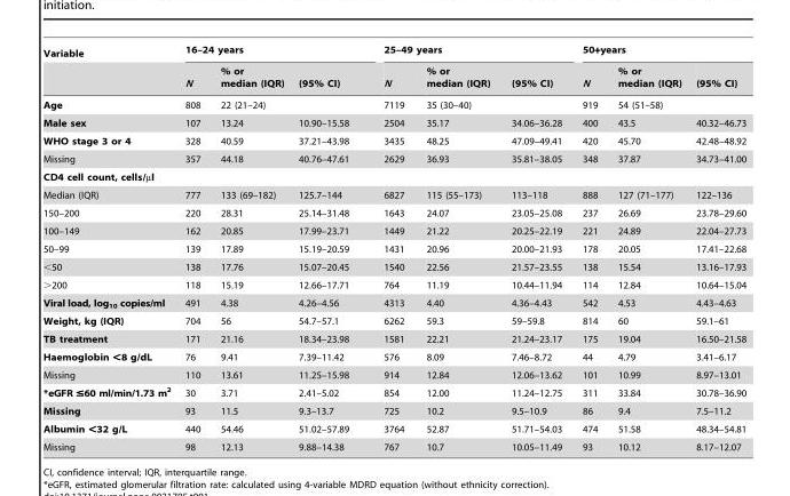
<table><thead><tr><td rowspan="2">Variable</td><td colspan="3">16–24 years</td><td colspan="3">25–49 years</td><td colspan="3">50+years</td></tr><tr><td>N</td><td>% or median (IQR)</td><td>(95% CI)</td><td>N</td><td>% or median (IQR)</td><td>(95% CI)</td><td>N</td><td>% or median (IQR)</td><td>(95% CI)</td></tr></thead><tbody><tr><td>Age</td><td>808</td><td>22 (21–24)</td><td></td><td>7119</td><td>35 (30–40)</td><td></td><td>919</td><td>54 (51–58)</td><td></td></tr><tr><td>Male sex</td><td>107</td><td>13.24</td><td>10.90–15.58</td><td>2504</td><td>35.17</td><td>34.06–36.28</td><td>400</td><td>43.5</td><td>40.32–46.73</td></tr><tr><td>WHO stage 3 or 4</td><td>328</td><td>40.59</td><td>37.21–43.98</td><td>3435</td><td>48.25</td><td>47.09–49.41</td><td>420</td><td>45.70</td><td>42.48–48.92</td></tr><tr><td>Missing</td><td>357</td><td>44.18</td><td>40.76–47.61</td><td>2629</td><td>36.93</td><td>35.81–38.05</td><td>348</td><td>37.87</td><td>34.73–41.00</td></tr><tr><td colspan="10">CD4 cell count, cells/µl</td></tr><tr><td>Median (IQR)</td><td>777</td><td>133 (69–182)</td><td>125.7–144</td><td>6827</td><td>115 (55–173)</td><td>113–118</td><td>888</td><td>127 (71–177)</td><td>122–136</td></tr><tr><td>150–200</td><td>220</td><td>28.31</td><td>25.14–31.48</td><td>1643</td><td>24.07</td><td>23.05–25.08</td><td>237</td><td>26.69</td><td>23.78–29.60</td></tr><tr><td>100–149</td><td>162</td><td>20.85</td><td>17.99–23.71</td><td>1449</td><td>21.22</td><td>20.25–22.19</td><td>221</td><td>24.89</td><td>22.04–27.73</td></tr><tr><td>50–99</td><td>139</td><td>17.89</td><td>15.19–20.59</td><td>1431</td><td>20.96</td><td>20.00–21.93</td><td>178</td><td>20.05</td><td>17.41–22.68</td></tr><tr><td>&lt;50</td><td>138</td><td>17.76</td><td>15.07–20.45</td><td>1540</td><td>22.56</td><td>21.57–23.55</td><td>138</td><td>15.54</td><td>13.16–17.93</td></tr><tr><td>&gt;200</td><td>118</td><td>15.19</td><td>12.66–17.71</td><td>764</td><td>11.19</td><td>10.44–11.94</td><td>114</td><td>12.84</td><td>10.64–15.04</td></tr><tr><td>Viral load, log<sub>10</sub> copies/ml</td><td>491</td><td>4.38</td><td>4.26–4.56</td><td>4313</td><td>4.40</td><td>4.36–4.43</td><td>542</td><td>4.53</td><td>4.43–4.63</td></tr><tr><td>Weight, kg (IQR)</td><td>704</td><td>56</td><td>54.7–57.1</td><td>6262</td><td>59.3</td><td>59–59.8</td><td>814</td><td>60</td><td>59.1–61</td></tr><tr><td>TB treatment</td><td>171</td><td>21.16</td><td>18.34–23.98</td><td>1581</td><td>22.21</td><td>21.24–23.17</td><td>175</td><td>19.04</td><td>16.50–21.58</td></tr><tr><td>Haemoglobin &lt;8 g/dL</td><td>76</td><td>9.41</td><td>7.39–11.42</td><td>576</td><td>8.09</td><td>7.46–8.72</td><td>44</td><td>4.79</td><td>3.41–6.17</td></tr><tr><td>Missing</td><td>110</td><td>13.61</td><td>11.25–15.98</td><td>914</td><td>12.84</td><td>12.06–13.62</td><td>101</td><td>10.99</td><td>8.97–13.01</td></tr><tr><td>*eGFR ≤60 ml/min/1.73 m<sup>2</sup></td><td>30</td><td>3.71</td><td>2.41–5.02</td><td>854</td><td>12.00</td><td>11.24–12.75</td><td>311</td><td>33.84</td><td>30.78–36.90</td></tr><tr><td>Missing</td><td>93</td><td>11.5</td><td>9.3–13.7</td><td>725</td><td>10.2</td><td>9.5–10.9</td><td>86</td><td>9.4</td><td>7.5–11.2</td></tr><tr><td>Albumin &lt;32 g/L</td><td>440</td><td>54.46</td><td>51.02–57.89</td><td>3764</td><td>52.87</td><td>51.71–54.03</td><td>474</td><td>51.58</td><td>48.34–54.81</td></tr><tr><td>Missing</td><td>98</td><td>12.13</td><td>9.88–14.38</td><td>767</td><td>10.7</td><td>10.05–11.49</td><td>93</td><td>10.12</td><td>8.17–12.07</td></tr></tbody></table>